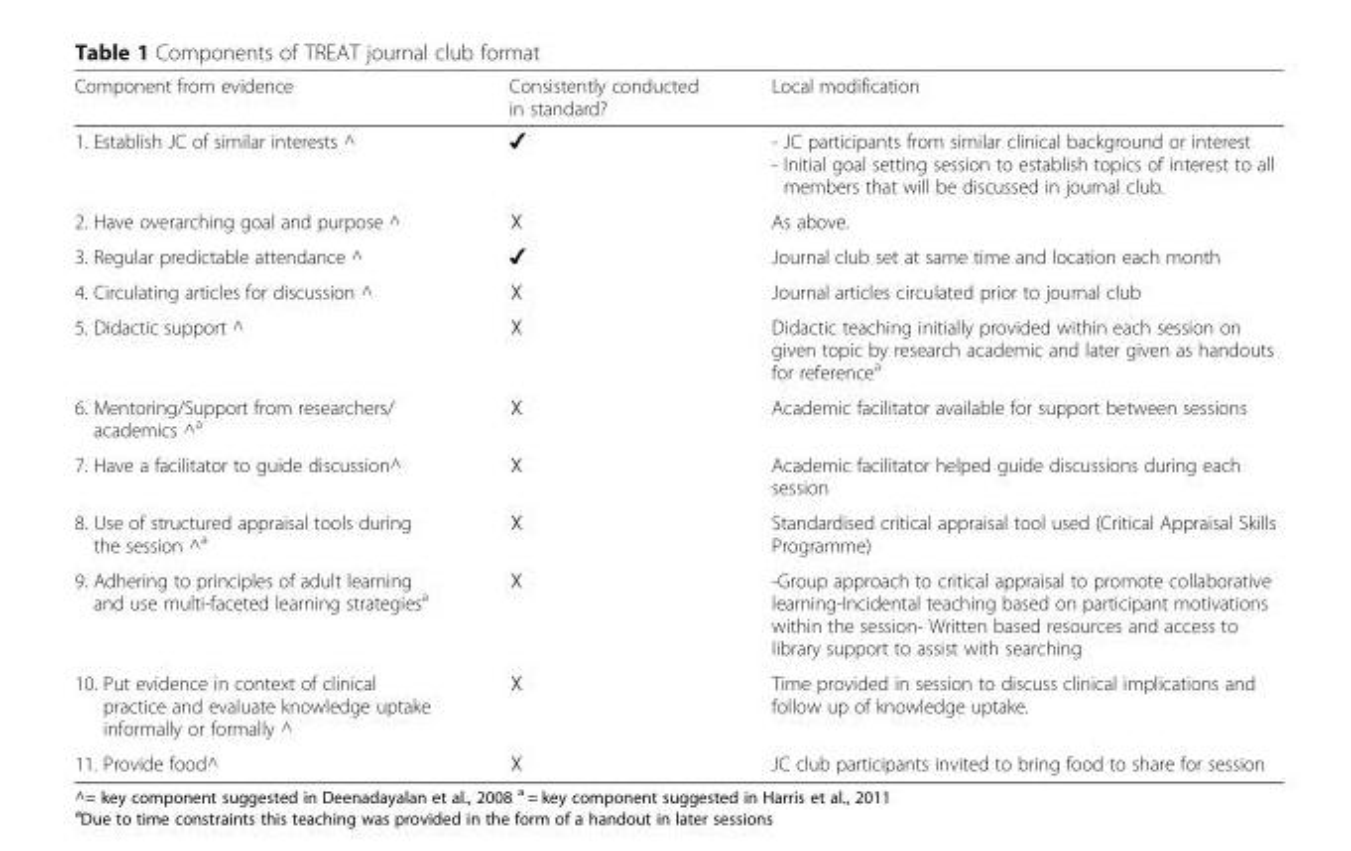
<table><thead><tr><td>Component from evidence</td><td>Consistently conducted in standard?</td><td>Local modification</td></tr></thead><tbody><tr><td>1. Establish JC of similar interests ^</td><td>✔</td><td>- JC participants from similar clinical background or interest - Initial goal setting session to establish topics of interest to all members that will be discussed in journal club.</td></tr><tr><td>2. Have overarching goal and purpose ^</td><td>☓</td><td>As above.</td></tr><tr><td>3. Regular predictable attendance ^</td><td>✔</td><td>Journal club set at same time and location each month</td></tr><tr><td>4. Circulating articles for discussion ^</td><td>☓</td><td>Journal articles circulated prior to journal club</td></tr><tr><td>5. Didactic support ^</td><td>☓</td><td>Didactic teaching initially provided within each session on given topic by research academic and later given as handouts for reference<sup>a</sup></td></tr><tr><td>6. Mentoring/Support from researchers/ academics ^a</td><td>☓</td><td>Academic facilitator available for support between sessions</td></tr><tr><td>7. Have a facilitator to guide discussion^</td><td>☓</td><td>Academic facilitator helped guide discussions during each session</td></tr><tr><td>8. Use of structured appraisal tools during the session ^a</td><td>☓</td><td>Standardised critical appraisal tool used (Critical Appraisal Skills Programme)</td></tr><tr><td>9. Adhering to principles of adult learning and use multi-faceted learning strategies<sup>a</sup></td><td>☓</td><td>-Group approach to critical appraisal to promote collaborative learning-Incidental teaching based on participant motivations within the session- Written based resources and access to library support to assist with searching</td></tr><tr><td>10. Put evidence in context of clinical practice and evaluate knowledge uptake informally or formally ^</td><td>☓</td><td>Time provided in session to discuss clinical implications and follow up of knowledge uptake.</td></tr><tr><td>11. Provide food^</td><td>☓</td><td>JC club participants invited to bring food to share for session</td></tr></tbody></table>